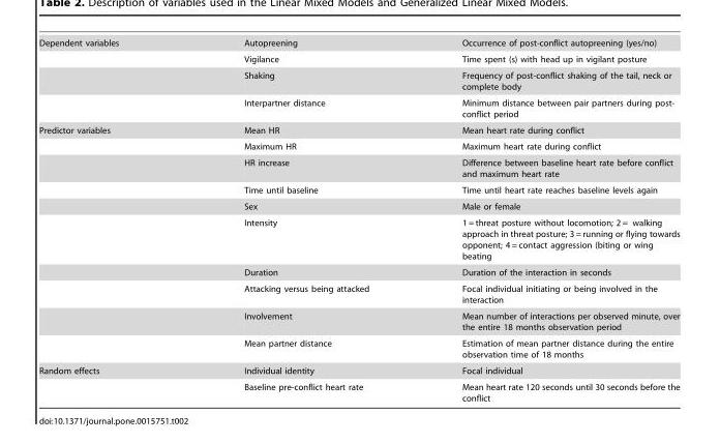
<table><tbody><tr><td rowspan="4">Dependent variables</td><td>Autopreening</td><td>Occurrence of post-conflict autopreening (yes/no)</td></tr><tr><td>Vigilance</td><td>Time spent (s) with head up in vigilant posture</td></tr><tr><td>Shaking</td><td>Frequency of post-conflict shaking of the tail, neck or complete body</td></tr><tr><td>Interpartner distance</td><td>Minimum distance between pair partners during post- conflict period</td></tr><tr><td rowspan="10">Predictor variables</td><td>Mean HR</td><td>Mean heart rate during conflict</td></tr><tr><td>Maximum HR</td><td>Maximum heart rate during conflict</td></tr><tr><td>HR increase</td><td>Difference between baseline heart rate before conflict and maximum heart rate</td></tr><tr><td>Time until baseline</td><td>Time until heart rate reaches baseline levels again</td></tr><tr><td>Sex</td><td>Male or female</td></tr><tr><td>Intensity</td><td>1 = threat posture without locomotion; 2 = walking approach in threat posture; 3 = running or flying towards opponent; 4 = contact aggression (biting or wing beating</td></tr><tr><td>Duration</td><td>Duration of the interaction in seconds</td></tr><tr><td>Attacking versus being attacked</td><td>Focal individual initiating or being involved in the interaction</td></tr><tr><td>Involvement</td><td>Mean number of interactions per observed minute, over the entire 18 months observation period</td></tr><tr><td>Mean partner distance</td><td>Estimation of mean partner distance during the entire observation time of 18 months</td></tr><tr><td rowspan="2">Random effects</td><td>Individual identity</td><td>Focal individual</td></tr><tr><td>Baseline pre-conflict heart rate</td><td>Mean heart rate 120 seconds until 30 seconds before the conflict</td></tr></tbody></table>